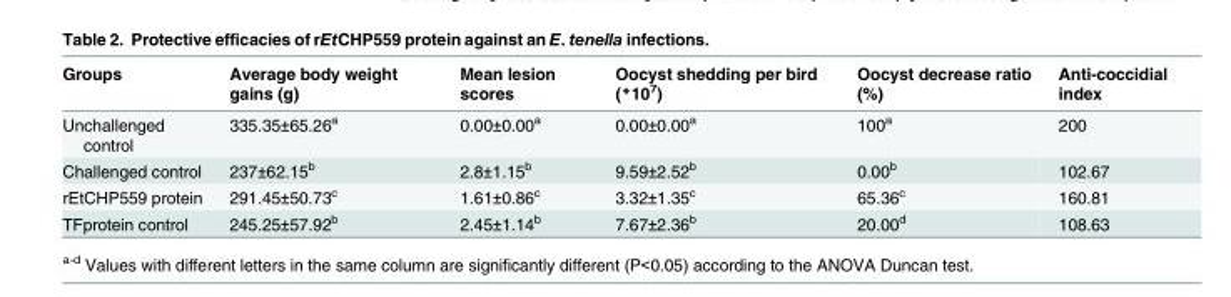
<table><thead><tr><td>Groups</td><td>Average body weight gains (g)</td><td>Mean lesion scores</td><td>Oocyst shedding per bird (*10<sup>7</sup>)</td><td>Oocyst decrease ratio (%)</td><td>Anti-coccidial index</td></tr></thead><tbody><tr><td>Unchallenged control</td><td>335.35±65.26<sup>a</sup></td><td>0.00±0.00<sup>a</sup></td><td>0.00±0.00<sup>a</sup></td><td>100<sup>a</sup></td><td>200</td></tr><tr><td>Challenged control</td><td>237±62.15<sup>b</sup></td><td>2.8±1.15<sup>b</sup></td><td>9.59±2.52<sup>b</sup></td><td>0.00<sup>b</sup></td><td>102.67</td></tr><tr><td>rEtCHP559 protein</td><td>291.45±50.73<sup>c</sup></td><td>1.61±0.86<sup>c</sup></td><td>3.32±1.35<sup>c</sup></td><td>65.36<sup>c</sup></td><td>160.81</td></tr><tr><td>TFprotein control</td><td>245.25±57.92<sup>b</sup></td><td>2.45±1.14<sup>b</sup></td><td>7.67±2.36<sup>b</sup></td><td>20.00<sup>d</sup></td><td>108.63</td></tr></tbody></table>